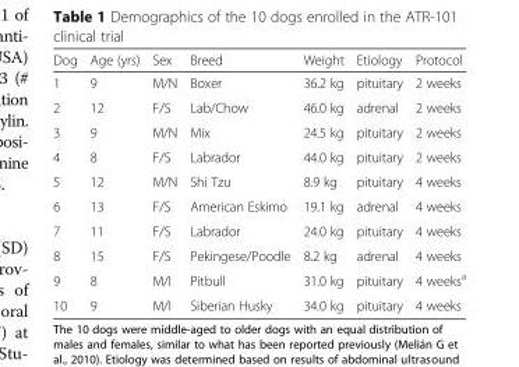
<table><thead><tr><td>Dog</td><td>Age (yrs)</td><td>Sex</td><td>Breed</td><td>Weight</td><td>Etiology</td><td>Protocol</td></tr></thead><tbody><tr><td>1</td><td>9</td><td>M/N</td><td>Boxer</td><td>36.2 kg</td><td>pituitary</td><td>2 weeks</td></tr><tr><td>2</td><td>12</td><td>F/S</td><td>Lab/Chow</td><td>46.0 kg</td><td>adrenal</td><td>2 weeks</td></tr><tr><td>3</td><td>9</td><td>M/N</td><td>Mix</td><td>24.5 kg</td><td>pituitary</td><td>2 weeks</td></tr><tr><td>4</td><td>8</td><td>F/S</td><td>Labrador</td><td>44.0 kg</td><td>pituitary</td><td>2 weeks</td></tr><tr><td>5</td><td>12</td><td>M/N</td><td>Shi Tzu</td><td>8.9 kg</td><td>pituitary</td><td>4 weeks</td></tr><tr><td>6</td><td>13</td><td>F/S</td><td>American Eskimo</td><td>19.1 kg</td><td>adrenal</td><td>4 weeks</td></tr><tr><td>7</td><td>11</td><td>F/S</td><td>Labrador</td><td>24.0 kg</td><td>pituitary</td><td>4 weeks</td></tr><tr><td>8</td><td>15</td><td>F/S</td><td>Pekingese/Poodle</td><td>8.2 kg</td><td>adrenal</td><td>4 weeks</td></tr><tr><td>9</td><td>8</td><td>M/I</td><td>Pitbull</td><td>31.0 kg</td><td>pituitary</td><td>4 weeks<sup>a</sup></td></tr><tr><td>10</td><td>9</td><td>M/I</td><td>Siberian Husky</td><td>34.0 kg</td><td>pituitary</td><td>4 weeks</td></tr></tbody></table>